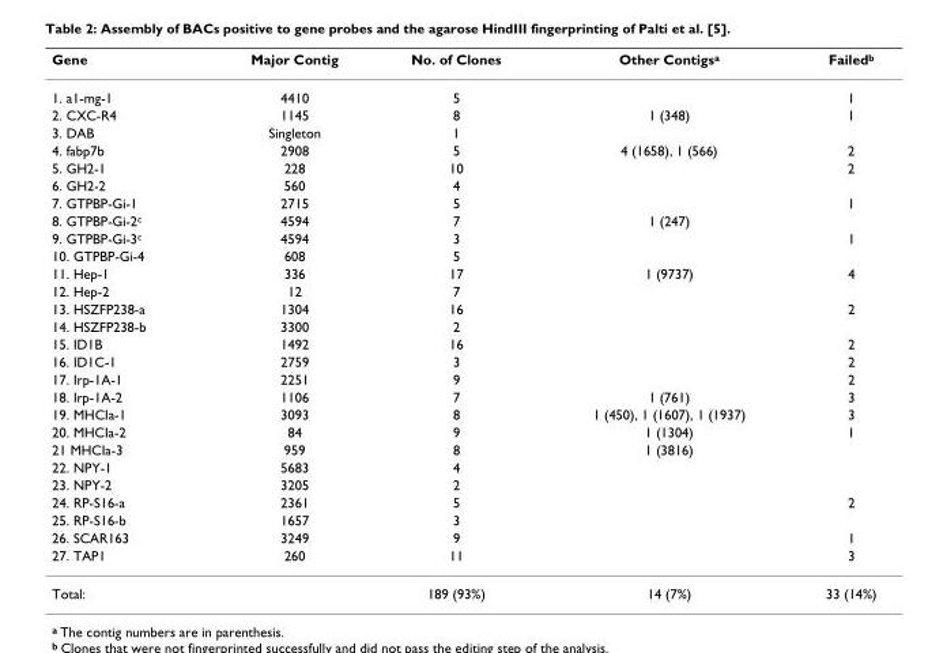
<table><thead><tr><td>Gene</td><td>Major Contig</td><td>No. of Clones</td><td>Other Contigs<sup>a</sup></td><td>Failed<sup>b</sup></td></tr></thead><tbody><tr><td>1. a1-mg-1</td><td>4410</td><td>5</td><td></td><td>1</td></tr><tr><td>2. CXC-R4</td><td>1145</td><td>8</td><td>1 (348)</td><td>1</td></tr><tr><td>3. DAB</td><td>Singleton</td><td>1</td><td></td><td></td></tr><tr><td>4. fabp7b</td><td>2908</td><td>5</td><td>4 (1658), 1 (566)</td><td>2</td></tr><tr><td>5. GH2-1</td><td>228</td><td>10</td><td></td><td>2</td></tr><tr><td>6. GH2-2</td><td>560</td><td>4</td><td></td><td></td></tr><tr><td>7. GTPBP-Gi-1</td><td>2715</td><td>5</td><td></td><td>1</td></tr><tr><td>8. GTPBP-Gi-2<sup>c</sup></td><td>4594</td><td>7</td><td>1 (247)</td><td></td></tr><tr><td>9. GTPBP-Gi-3<sup>c</sup></td><td>4594</td><td>3</td><td></td><td>1</td></tr><tr><td>10. GTPBP-Gi-4</td><td>608</td><td>5</td><td></td><td></td></tr><tr><td>11. Hep-1</td><td>336</td><td>17</td><td>1 (9737)</td><td>4</td></tr><tr><td>12. Hep-2</td><td>12</td><td>7</td><td></td><td></td></tr><tr><td>13. HSZFP238-a</td><td>1304</td><td>16</td><td></td><td>2</td></tr><tr><td>14. HSZFP238-b</td><td>3300</td><td>2</td><td></td><td></td></tr><tr><td>15. ID1B</td><td>1492</td><td>16</td><td></td><td>2</td></tr><tr><td>16. ID1C-1</td><td>2759</td><td>3</td><td></td><td>2</td></tr><tr><td>17. Irp-1A-1</td><td>2251</td><td>9</td><td></td><td>2</td></tr><tr><td>18. Irp-1A-2</td><td>1106</td><td>7</td><td>1 (761)</td><td>3</td></tr><tr><td>19. MHCIa-1</td><td>3093</td><td>8</td><td>1 (450), 1 (1607), 1 (1937)</td><td>3</td></tr><tr><td>20. MHCIa-2</td><td>84</td><td>9</td><td>1 (1304)</td><td>1</td></tr><tr><td>21 MHCIa-3</td><td>959</td><td>8</td><td>1 (3816)</td><td></td></tr><tr><td>22. NPY-1</td><td>5683</td><td>4</td><td></td><td></td></tr><tr><td>23. NPY-2</td><td>3205</td><td>2</td><td></td><td></td></tr><tr><td>24. RP-S16-a</td><td>2361</td><td>5</td><td></td><td>2</td></tr><tr><td>25. RP-S16-b</td><td>1657</td><td>3</td><td></td><td></td></tr><tr><td>26. SCAR163</td><td>3249</td><td>9</td><td></td><td>1</td></tr><tr><td>27. TAP1</td><td>260</td><td>11</td><td></td><td>3</td></tr><tr><td>Total:</td><td></td><td>189 (93%)</td><td>14 (7%)</td><td>33 (14%)</td></tr></tbody></table>